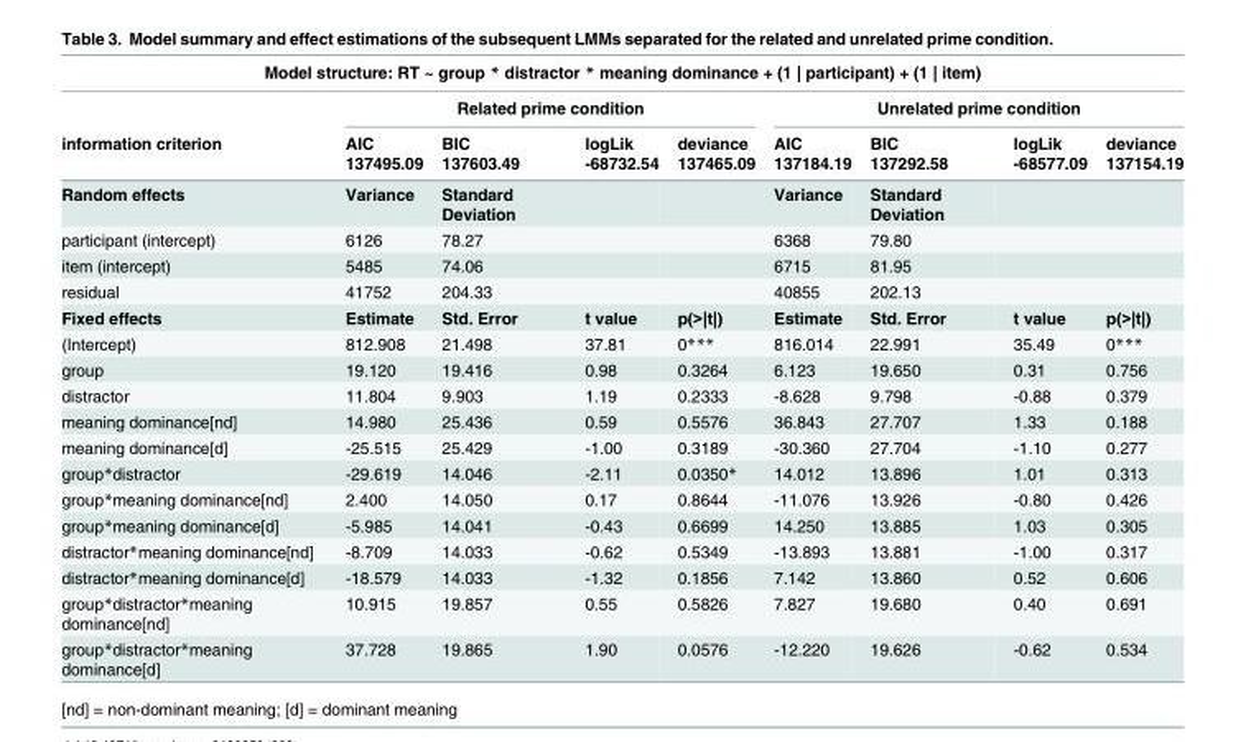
<table><thead><tr><td colspan="9">Model structure: RT ~ group * distractor * meaning dominance + (1 | participant) + (1 | item)</td></tr><tr><td rowspan="3">information criterion</td><td colspan="4">Related prime condition</td><td colspan="4">Unrelated prime condition</td></tr><tr><td rowspan="2">AIC 137495.09</td><td rowspan="2">BIC 137603.49</td><td rowspan="2">logLik -68732.54</td><td rowspan="2">deviance 137465.09</td><td rowspan="2">AIC 137184.19</td><td rowspan="2">BIC 137292.58</td><td rowspan="2">logLik -68577.09</td><td rowspan="2">deviance 137154.19</td></tr><tr></tr></thead><tbody><tr><td>Random effects</td><td>Variance</td><td>Standard Deviation</td><td></td><td></td><td>Variance</td><td>Standard Deviation</td><td></td><td></td></tr><tr><td>participant (intercept)</td><td>6126</td><td>78.27</td><td></td><td></td><td>6368</td><td>79.80</td><td></td><td></td></tr><tr><td>item (intercept)</td><td>5485</td><td>74.06</td><td></td><td></td><td>6715</td><td>81.95</td><td></td><td></td></tr><tr><td>residual</td><td>41752</td><td>204.33</td><td></td><td></td><td>40855</td><td>202.13</td><td></td><td></td></tr><tr><td>Fixed effects</td><td>Estimate</td><td>Std. Error</td><td>t value</td><td>p(&gt;|t|)</td><td>Estimate</td><td>Std. Error</td><td>t value</td><td>p(&gt;|t|)</td></tr><tr><td>(Intercept)</td><td>812.908</td><td>21.498</td><td>37.81</td><td>0***</td><td>816.014</td><td>22.991</td><td>35.49</td><td>0***</td></tr><tr><td>group</td><td>19.120</td><td>19.416</td><td>0.98</td><td>0.3264</td><td>6.123</td><td>19.650</td><td>0.31</td><td>0.756</td></tr><tr><td>distractor</td><td>11.804</td><td>9.903</td><td>1.19</td><td>0.2333</td><td>-8.628</td><td>9.798</td><td>-0.88</td><td>0.379</td></tr><tr><td>meaning dominance[nd]</td><td>14.980</td><td>25.436</td><td>0.59</td><td>0.5576</td><td>36.843</td><td>27.707</td><td>1.33</td><td>0.188</td></tr><tr><td>meaning dominance[d]</td><td>-25.515</td><td>25.429</td><td>-1.00</td><td>0.3189</td><td>-30.360</td><td>27.704</td><td>-1.10</td><td>0.277</td></tr><tr><td>group*distractor</td><td>-29.619</td><td>14.046</td><td>-2.11</td><td>0.0350*</td><td>14.012</td><td>13.896</td><td>1.01</td><td>0.313</td></tr><tr><td>group*meaning dominance[nd]</td><td>2.400</td><td>14.050</td><td>0.17</td><td>0.8644</td><td>-11.076</td><td>13.926</td><td>-0.80</td><td>0.426</td></tr><tr><td>group*meaning dominance[d]</td><td>-5.985</td><td>14.041</td><td>-0.43</td><td>0.6699</td><td>14.250</td><td>13.885</td><td>1.03</td><td>0.305</td></tr><tr><td>distractor*meaning dominance[nd]</td><td>-8.709</td><td>14.033</td><td>-0.62</td><td>0.5349</td><td>-13.893</td><td>13.881</td><td>-1.00</td><td>0.317</td></tr><tr><td>distractor*meaning dominance[d]</td><td>-18.579</td><td>14.033</td><td>-1.32</td><td>0.1856</td><td>7.142</td><td>13.860</td><td>0.52</td><td>0.606</td></tr><tr><td>group*distractor*meaning dominance[nd]</td><td>10.915</td><td>19.857</td><td>0.55</td><td>0.5826</td><td>7.827</td><td>19.680</td><td>0.40</td><td>0.691</td></tr><tr><td>group*distractor*meaning dominance[d]</td><td>37.728</td><td>19.865</td><td>1.90</td><td>0.0576</td><td>-12.220</td><td>19.626</td><td>-0.62</td><td>0.534</td></tr></tbody></table>